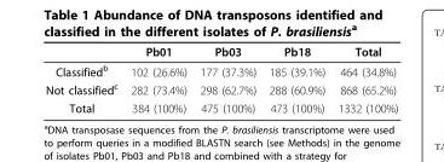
<table><thead><tr><td></td><td>Pb01</td><td>Pb03</td><td>Pb18</td><td>Total</td></tr></thead><tbody><tr><td>Classified<sup>b</sup></td><td>102 (26.6%)</td><td>177 (37.3%)</td><td>185 (39.1%)</td><td>464 (34.8%)</td></tr><tr><td>Not classified<sup>c</sup></td><td>282 (73.4%)</td><td>298 (62.7%)</td><td>288 (60.9%)</td><td>868 (65.2%)</td></tr><tr><td>Total</td><td>384 (100%)</td><td>475 (100%)</td><td>473 (100%)</td><td>1332 (100%)</td></tr></tbody></table>